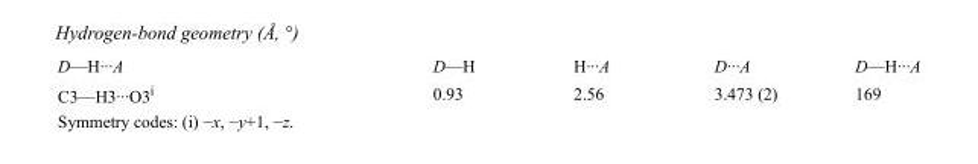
<table><tbody><tr><td>D—H···A</td><td>D—H</td><td>H···A</td><td>D···A</td><td>D—H···A</td></tr><tr><td>C3—H3···O3<sup>i</sup></td><td>0.93</td><td>2.56</td><td>3.473 (2)</td><td>169</td></tr></tbody></table>